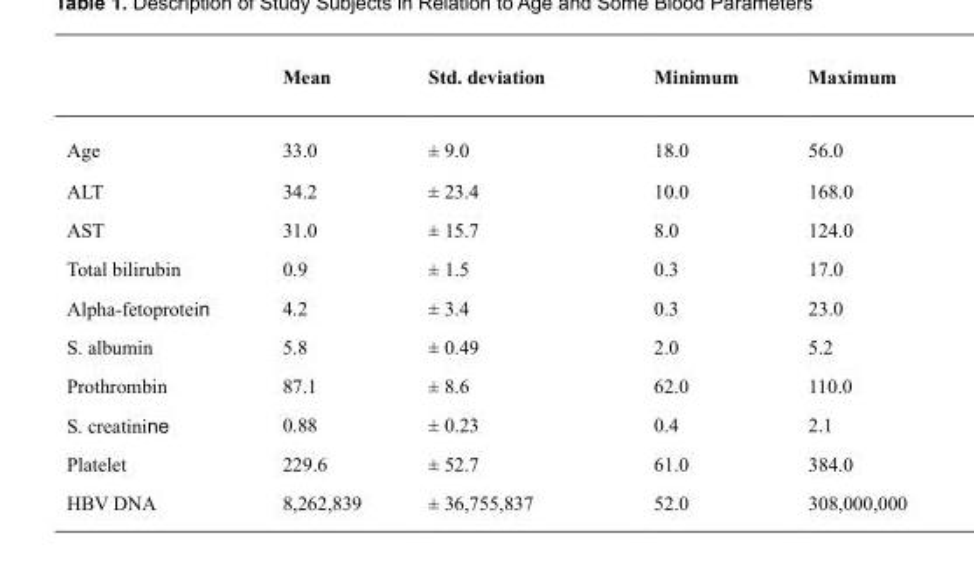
<table><thead><tr><td></td><td>Mean</td><td>Std. deviation</td><td>Minimum</td><td>Maximum</td></tr></thead><tbody><tr><td>Age</td><td>33.0</td><td>± 9.0</td><td>18.0</td><td>56.0</td></tr><tr><td>ALT</td><td>34.2</td><td>± 23.4</td><td>10.0</td><td>168.0</td></tr><tr><td>AST</td><td>31.0</td><td>± 15.7</td><td>8.0</td><td>124.0</td></tr><tr><td>Total bilirubin</td><td>0.9</td><td>± 1.5</td><td>0.3</td><td>17.0</td></tr><tr><td>Alpha-fetoprotein</td><td>4.2</td><td>± 3.4</td><td>0.3</td><td>23.0</td></tr><tr><td>S. albumin</td><td>5.8</td><td>± 0.49</td><td>2.0</td><td>5.2</td></tr><tr><td>Prothrombin</td><td>87.1</td><td>± 8.6</td><td>62.0</td><td>110.0</td></tr><tr><td>S. creatinine</td><td>0.88</td><td>± 0.23</td><td>0.4</td><td>2.1</td></tr><tr><td>Platelet</td><td>229.6</td><td>± 52.7</td><td>61.0</td><td>384.0</td></tr><tr><td>HBV DNA</td><td>8,262,839</td><td>± 36,755,837</td><td>52.0</td><td>308,000,000</td></tr></tbody></table>